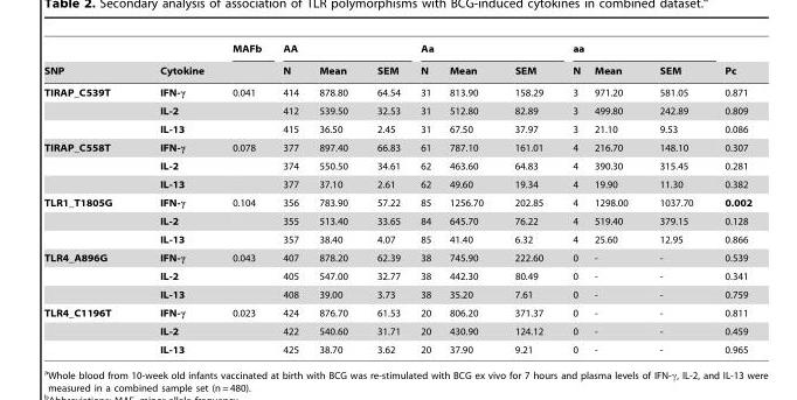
<table><thead><tr><td rowspan="2">SNP</td><td rowspan="2">Cytokine</td><td rowspan="2">MAFb</td><td colspan="3">AA</td><td colspan="3">Aa</td><td colspan="3">aa</td><td rowspan="2">Pc</td></tr><tr><td>N</td><td>Mean</td><td>SEM</td><td>N</td><td>Mean</td><td>SEM</td><td>N</td><td>Mean</td><td>SEM</td></tr></thead><tbody><tr><td rowspan="3">TIRAP_C539T</td><td>IFN-γ</td><td>0.041</td><td>414</td><td>878.80</td><td>64.54</td><td>31</td><td>813.90</td><td>158.29</td><td>3</td><td>971.20</td><td>581.05</td><td>0.871</td></tr><tr><td>IL-2</td><td></td><td>412</td><td>539.50</td><td>32.53</td><td>31</td><td>512.80</td><td>82.89</td><td>3</td><td>499.80</td><td>242.89</td><td>0.809</td></tr><tr><td>IL-13</td><td></td><td>415</td><td>36.50</td><td>2.45</td><td>31</td><td>67.50</td><td>37.97</td><td>3</td><td>21.10</td><td>9.53</td><td>0.086</td></tr><tr><td rowspan="3">TIRAP_C558T</td><td>IFN-γ</td><td>0.078</td><td>377</td><td>897.40</td><td>66.83</td><td>61</td><td>787.10</td><td>161.01</td><td>4</td><td>216.70</td><td>148.10</td><td>0.307</td></tr><tr><td>IL-2</td><td></td><td>374</td><td>550.50</td><td>34.61</td><td>62</td><td>463.60</td><td>64.83</td><td>4</td><td>390.30</td><td>315.45</td><td>0.281</td></tr><tr><td>IL-13</td><td></td><td>377</td><td>37.10</td><td>2.61</td><td>62</td><td>49.60</td><td>19.34</td><td>4</td><td>19.90</td><td>11.30</td><td>0.382</td></tr><tr><td rowspan="3">TLR1_T1805G</td><td>IFN-γ</td><td>0.104</td><td>356</td><td>783.90</td><td>57.22</td><td>85</td><td>1256.70</td><td>202.85</td><td>4</td><td>1298.00</td><td>1037.70</td><td>0.002</td></tr><tr><td>IL-2</td><td></td><td>355</td><td>513.40</td><td>33.65</td><td>84</td><td>645.70</td><td>76.22</td><td>4</td><td>519.40</td><td>379.15</td><td>0.128</td></tr><tr><td>IL-13</td><td></td><td>357</td><td>38.40</td><td>4.07</td><td>85</td><td>41.40</td><td>6.32</td><td>4</td><td>25.60</td><td>12.95</td><td>0.866</td></tr><tr><td rowspan="3">TLR4_A896G</td><td>IFN-γ</td><td>0.043</td><td>407</td><td>878.20</td><td>62.39</td><td>38</td><td>745.90</td><td>222.60</td><td>0</td><td>-</td><td>-</td><td>0.539</td></tr><tr><td>IL-2</td><td></td><td>405</td><td>547.00</td><td>32.77</td><td>38</td><td>442.30</td><td>80.49</td><td>0</td><td>-</td><td>-</td><td>0.341</td></tr><tr><td>IL-13</td><td></td><td>408</td><td>39.00</td><td>3.73</td><td>38</td><td>35.20</td><td>7.61</td><td>0</td><td>-</td><td>-</td><td>0.759</td></tr><tr><td rowspan="3">TLR4_C1196T</td><td>IFN-γ</td><td>0.023</td><td>424</td><td>876.70</td><td>61.53</td><td>20</td><td>806.20</td><td>371.37</td><td>0</td><td>-</td><td>-</td><td>0.811</td></tr><tr><td>IL-2</td><td></td><td>422</td><td>540.60</td><td>31.71</td><td>20</td><td>430.90</td><td>124.12</td><td>0</td><td>-</td><td>-</td><td>0.459</td></tr><tr><td>IL-13</td><td></td><td>425</td><td>38.70</td><td>3.62</td><td>20</td><td>37.90</td><td>9.21</td><td>0</td><td>-</td><td>-</td><td>0.965</td></tr></tbody></table>